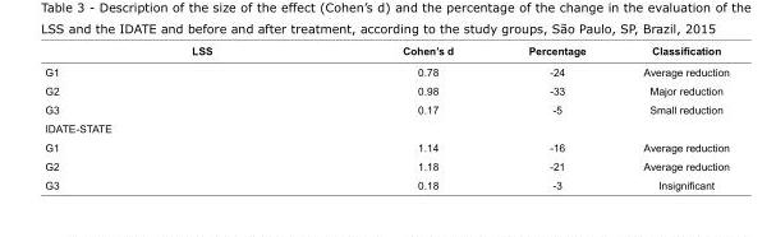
<table><thead><tr><td>LSS</td><td>Cohen’s d</td><td>Percentage</td><td>Classification</td></tr></thead><tbody><tr><td>G1</td><td>0.78</td><td>-24</td><td>Average reduction</td></tr><tr><td>G2</td><td>0.98</td><td>-33</td><td>Major reduction</td></tr><tr><td>G3</td><td>0.17</td><td>-5</td><td>Small reduction</td></tr><tr><td colspan="4">IDATE-STATE</td></tr><tr><td>G1</td><td>1.14</td><td>-16</td><td>Average reduction</td></tr><tr><td>G2</td><td>1.18</td><td>-21</td><td>Average reduction</td></tr><tr><td>G3</td><td>0.18</td><td>-3</td><td>Insignificant</td></tr></tbody></table>